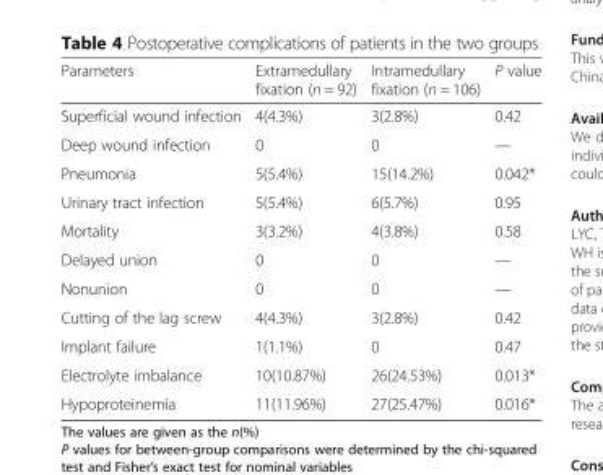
<table><thead><tr><td>Parameters</td><td>Extramedullary fixation (n = 92)</td><td>Intramedullary fixation (n = 106)</td><td>P value</td></tr></thead><tbody><tr><td>Superficial wound infection</td><td>4(4.3%)</td><td>3(2.8%)</td><td>0.42</td></tr><tr><td>Deep wound infection</td><td>0</td><td>0</td><td>—</td></tr><tr><td>Pneumonia</td><td>5(5.4%)</td><td>15(14.2%)</td><td>0.042*</td></tr><tr><td>Urinary tract infection</td><td>5(5.4%)</td><td>6(5.7%)</td><td>0.95</td></tr><tr><td>Mortality</td><td>3(3.2%)</td><td>4(3.8%)</td><td>0.58</td></tr><tr><td>Delayed union</td><td>0</td><td>0</td><td>—</td></tr><tr><td>Nonunion</td><td>0</td><td>0</td><td>—</td></tr><tr><td>Cutting of the lag screw</td><td>4(4.3%)</td><td>3(2.8%)</td><td>0.42</td></tr><tr><td>Implant failure</td><td>1(1.1%)</td><td>0</td><td>0.47</td></tr><tr><td>Electrolyte imbalance</td><td>10(10.87%)</td><td>26(24.53%)</td><td>0.013*</td></tr><tr><td>Hypoproteinemia</td><td>11(11.96%)</td><td>27(25.47%)</td><td>0.016*</td></tr></tbody></table>